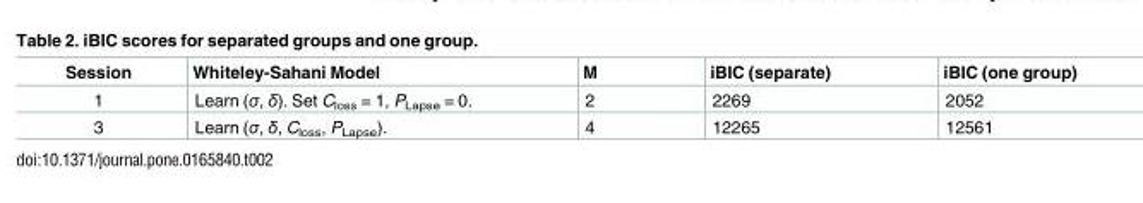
<table><thead><tr><td>Session</td><td>Whiteley-Sahani Model</td><td>M</td><td>iBIC (separate)</td><td>iBIC (one group)</td></tr></thead><tbody><tr><td>1</td><td>Learn (σ, δ). Set C<sub>loss</sub> = 1, P<sub>Lapse</sub> = 0.</td><td>2</td><td>2269</td><td>2052</td></tr><tr><td>3</td><td>Learn (σ, δ, C<sub>loss</sub>, P<sub>Lapse</sub>).</td><td>4</td><td>12265</td><td>12561</td></tr></tbody></table>